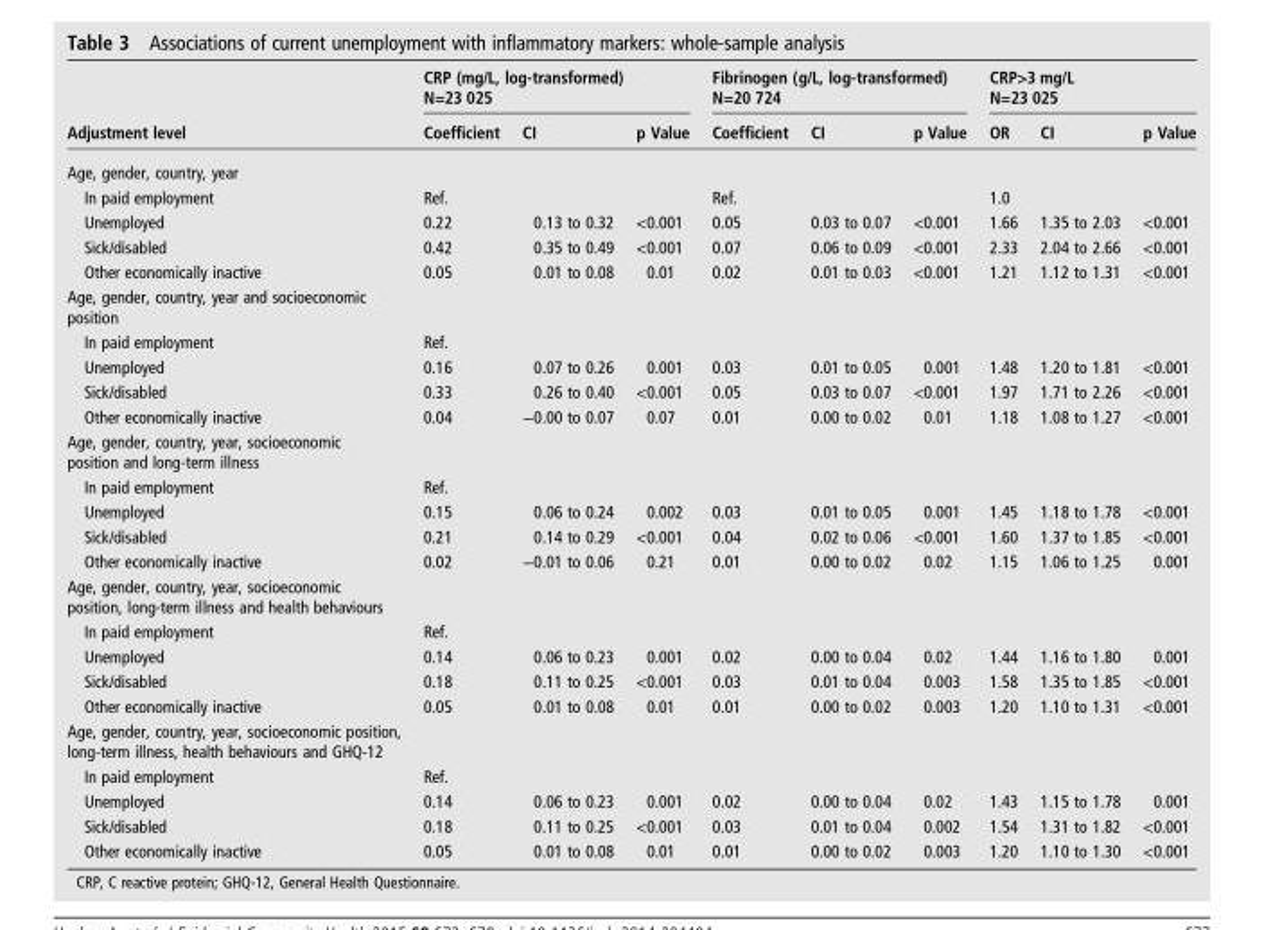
<table><thead><tr><td rowspan="2">Adjustment level</td><td colspan="3">CRP (mg/L, log-transformed) N=23 025</td><td colspan="3">Fibrinogen (g/L, log-transformed) N=20 724</td><td colspan="3">CRP&gt;3 mg/L N=23 025</td></tr><tr><td>Coefficient</td><td>CI</td><td>p Value</td><td>Coefficient</td><td>CI</td><td>p Value</td><td>OR</td><td>CI</td><td>p Value</td></tr></thead><tbody><tr><td colspan="10">Age, gender, country, year</td></tr><tr><td>In paid employment</td><td>Ref.</td><td></td><td></td><td>Ref.</td><td></td><td></td><td>1.0</td><td></td><td></td></tr><tr><td>Unemployed</td><td>0.22</td><td>0.13 to 0.32</td><td>&lt;0.001</td><td>0.05</td><td>0.03 to 0.07</td><td>&lt;0.001</td><td>1.66</td><td>1.35 to 2.03</td><td>&lt;0.001</td></tr><tr><td>Sick/disabled</td><td>0.42</td><td>0.35 to 0.49</td><td>&lt;0.001</td><td>0.07</td><td>0.06 to 0.09</td><td>&lt;0.001</td><td>2.33</td><td>2.04 to 2.66</td><td>&lt;0.001</td></tr><tr><td>Other economically inactive</td><td>0.05</td><td>0.01 to 0.08</td><td>0.01</td><td>0.02</td><td>0.01 to 0.03</td><td>&lt;0.001</td><td>1.21</td><td>1.12 to 1.31</td><td>&lt;0.001</td></tr><tr><td colspan="10">Age, gender, country, year and socioeconomic position</td></tr><tr><td>In paid employment</td><td>Ref.</td><td></td><td></td><td></td><td></td><td></td><td></td><td></td><td></td></tr><tr><td>Unemployed</td><td>0.16</td><td>0.07 to 0.26</td><td>0.001</td><td>0.03</td><td>0.01 to 0.05</td><td>0.001</td><td>1.48</td><td>1.20 to 1.81</td><td>&lt;0.001</td></tr><tr><td>Sick/disabled</td><td>0.33</td><td>0.26 to 0.40</td><td>&lt;0.001</td><td>0.05</td><td>0.03 to 0.07</td><td>&lt;0.001</td><td>1.97</td><td>1.71 to 2.26</td><td>&lt;0.001</td></tr><tr><td>Other economically inactive</td><td>0.04</td><td>−0.00 to 0.07</td><td>0.07</td><td>0.01</td><td>0.00 to 0.02</td><td>0.01</td><td>1.18</td><td>1.08 to 1.27</td><td>&lt;0.001</td></tr><tr><td colspan="10">Age, gender, country, year, socioeconomic position and long-term illness</td></tr><tr><td>In paid employment</td><td>Ref.</td><td></td><td></td><td></td><td></td><td></td><td></td><td></td><td></td></tr><tr><td>Unemployed</td><td>0.15</td><td>0.06 to 0.24</td><td>0.002</td><td>0.03</td><td>0.01 to 0.05</td><td>0.001</td><td>1.45</td><td>1.18 to 1.78</td><td>&lt;0.001</td></tr><tr><td>Sick/disabled</td><td>0.21</td><td>0.14 to 0.29</td><td>&lt;0.001</td><td>0.04</td><td>0.02 to 0.06</td><td>&lt;0.001</td><td>1.60</td><td>1.37 to 1.85</td><td>&lt;0.001</td></tr><tr><td>Other economically inactive</td><td>0.02</td><td>−0.01 to 0.06</td><td>0.21</td><td>0.01</td><td>0.00 to 0.02</td><td>0.02</td><td>1.15</td><td>1.06 to 1.25</td><td>0.001</td></tr><tr><td colspan="10">Age, gender, country, year, socioeconomic position, long-term illness and health behaviours</td></tr><tr><td>In paid employment</td><td>Ref.</td><td></td><td></td><td></td><td></td><td></td><td></td><td></td><td></td></tr><tr><td>Unemployed</td><td>0.14</td><td>0.06 to 0.23</td><td>0.001</td><td>0.02</td><td>0.00 to 0.04</td><td>0.02</td><td>1.44</td><td>1.16 to 1.80</td><td>0.001</td></tr><tr><td>Sick/disabled</td><td>0.18</td><td>0.11 to 0.25</td><td>&lt;0.001</td><td>0.03</td><td>0.01 to 0.04</td><td>0.003</td><td>1.58</td><td>1.35 to 1.85</td><td>&lt;0.001</td></tr><tr><td>Other economically inactive</td><td>0.05</td><td>0.01 to 0.08</td><td>0.01</td><td>0.01</td><td>0.00 to 0.02</td><td>0.003</td><td>1.20</td><td>1.10 to 1.31</td><td>&lt;0.001</td></tr><tr><td colspan="10">Age, gender, country, year, socioeconomic position, long-term illness, health behaviours and GHQ-12</td></tr><tr><td>In paid employment</td><td>Ref.</td><td></td><td></td><td></td><td></td><td></td><td></td><td></td><td></td></tr><tr><td>Unemployed</td><td>0.14</td><td>0.06 to 0.23</td><td>0.001</td><td>0.02</td><td>0.00 to 0.04</td><td>0.02</td><td>1.43</td><td>1.15 to 1.78</td><td>0.001</td></tr><tr><td>Sick/disabled</td><td>0.18</td><td>0.11 to 0.25</td><td>&lt;0.001</td><td>0.03</td><td>0.01 to 0.04</td><td>0.002</td><td>1.54</td><td>1.31 to 1.82</td><td>&lt;0.001</td></tr><tr><td>Other economically inactive</td><td>0.05</td><td>0.01 to 0.08</td><td>0.01</td><td>0.01</td><td>0.00 to 0.02</td><td>0.003</td><td>1.20</td><td>1.10 to 1.30</td><td>&lt;0.001</td></tr></tbody></table>